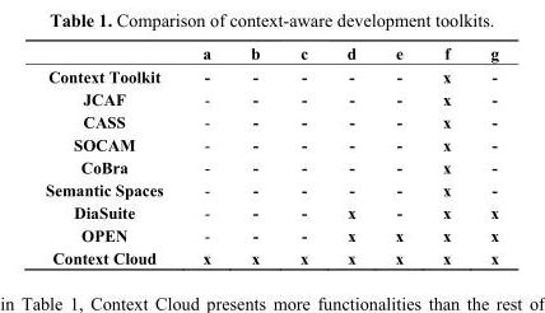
<table><thead><tr><td></td><td>a</td><td>b</td><td>c</td><td>d</td><td>e</td><td>f</td><td>g</td></tr></thead><tbody><tr><td>Context Toolkit</td><td>-</td><td>-</td><td>-</td><td>-</td><td>-</td><td>x</td><td>-</td></tr><tr><td>JCAF</td><td>-</td><td>-</td><td>-</td><td>-</td><td>-</td><td>x</td><td>-</td></tr><tr><td>CASS</td><td>-</td><td>-</td><td>-</td><td>-</td><td>-</td><td>x</td><td>-</td></tr><tr><td>SOCAM</td><td>-</td><td>-</td><td>-</td><td>-</td><td>-</td><td>x</td><td>-</td></tr><tr><td>CoBra</td><td>-</td><td>-</td><td>-</td><td>-</td><td>-</td><td>x</td><td>-</td></tr><tr><td>Semantic Spaces</td><td>-</td><td>-</td><td>-</td><td>-</td><td>-</td><td>x</td><td>-</td></tr><tr><td>DiaSuite</td><td>-</td><td>-</td><td>-</td><td>x</td><td>-</td><td>x</td><td>x</td></tr><tr><td>OPEN</td><td>-</td><td>-</td><td>-</td><td>x</td><td>x</td><td>x</td><td>x</td></tr><tr><td>Context Cloud</td><td>x</td><td>x</td><td>x</td><td>x</td><td>x</td><td>x</td><td>x</td></tr></tbody></table>